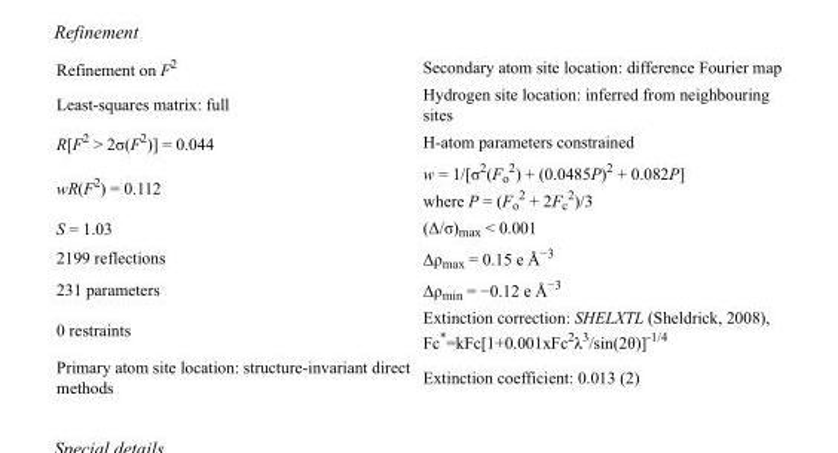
<table><tbody><tr><td>Refinement on F<sup>2</sup></td><td>Secondary atom site location: difference Fourier map</td></tr><tr><td>Least-squares matrix: full</td><td>Hydrogen site location: inferred from neighbouring sites</td></tr><tr><td>R[F<sup>2</sup> &gt; 2σ(F<sup>2</sup>)] = 0.044</td><td>H-atom parameters constrained</td></tr><tr><td>wR(F<sup>2</sup>) = 0.112</td><td>w = 1/[σ<sup>2</sup>(F<sub>o</sub> <sup>2</sup>) + (0.0485P)<sup>2</sup> + 0.082P] where P = (F<sub>o</sub> <sup>2</sup> + 2F<sub>c</sub> <sup>2</sup>)/3</td></tr><tr><td>S = 1.03</td><td>(Δ/σ)<sub>max</sub> &lt; 0.001</td></tr><tr><td>2199 reflections</td><td>Δρ<sub>max</sub> = 0.15 e Å<sup>−3</sup></td></tr><tr><td>231 parameters</td><td>Δρ<sub>min</sub> = −0.12 e Å<sup>−3</sup></td></tr><tr><td>0 restraints</td><td>Extinction correction: SHELXTL (Sheldrick, 2008), Fc*=kFc[1+0.001xFc<sup>2</sup>λ<sup>3</sup>/sin(2θ)]<sup>-1/4</sup></td></tr><tr><td>Primary atom site location: structure-invariant direct methods</td><td>Extinction coefficient: 0.013 (2)</td></tr></tbody></table>